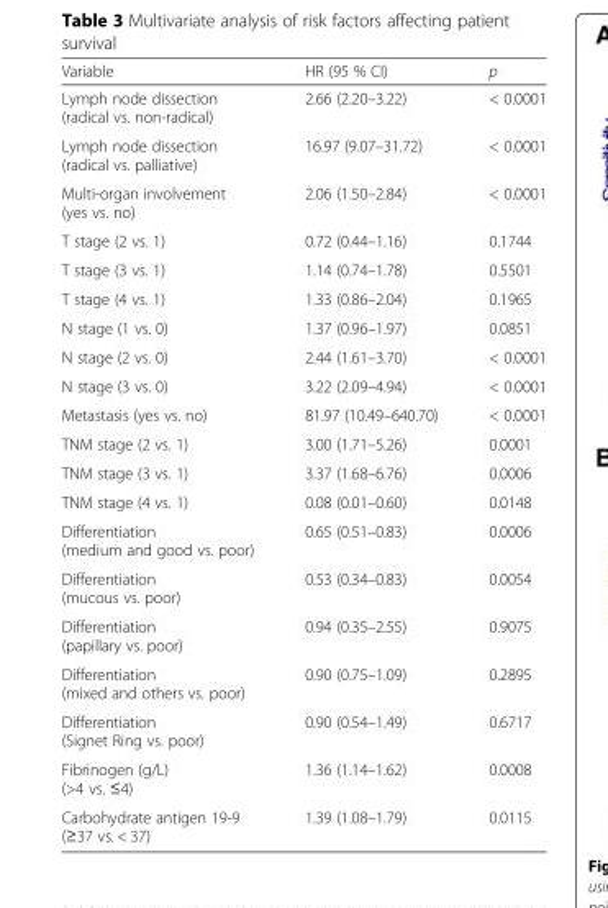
<table><thead><tr><td>Variable</td><td>HR (95 % CI)</td><td>p</td></tr></thead><tbody><tr><td>Lymph node dissection (radical vs. non-radical)</td><td>2.66 (2.20–3.22)</td><td>&lt; 0.0001</td></tr><tr><td>Lymph node dissection (radical vs. palliative)</td><td>16.97 (9.07–31.72)</td><td>&lt; 0.0001</td></tr><tr><td>Multi-organ involvement (yes vs. no)</td><td>2.06 (1.50–2.84)</td><td>&lt; 0.0001</td></tr><tr><td>T stage (2 vs. 1)</td><td>0.72 (0.44–1.16)</td><td>0.1744</td></tr><tr><td>T stage (3 vs. 1)</td><td>1.14 (0.74–1.78)</td><td>0.5501</td></tr><tr><td>T stage (4 vs. 1)</td><td>1.33 (0.86–2.04)</td><td>0.1965</td></tr><tr><td>N stage (1 vs. 0)</td><td>1.37 (0.96–1.97)</td><td>0.0851</td></tr><tr><td>N stage (2 vs. 0)</td><td>2.44 (1.61–3.70)</td><td>&lt; 0.0001</td></tr><tr><td>N stage (3 vs. 0)</td><td>3.22 (2.09–4.94)</td><td>&lt; 0.0001</td></tr><tr><td>Metastasis (yes vs. no)</td><td>81.97 (10.49–640.70)</td><td>&lt; 0.0001</td></tr><tr><td>TNM stage (2 vs. 1)</td><td>3.00 (1.71–5.26)</td><td>0.0001</td></tr><tr><td>TNM stage (3 vs. 1)</td><td>3.37 (1.68–6.76)</td><td>0.0006</td></tr><tr><td>TNM stage (4 vs. 1)</td><td>0.08 (0.01–0.60)</td><td>0.0148</td></tr><tr><td>Differentiation (medium and good vs. poor)</td><td>0.65 (0.51–0.83)</td><td>0.0006</td></tr><tr><td>Differentiation (mucous vs. poor)</td><td>0.53 (0.34–0.83)</td><td>0.0054</td></tr><tr><td>Differentiation (papillary vs. poor)</td><td>0.94 (0.35–2.55)</td><td>0.9075</td></tr><tr><td>Differentiation (mixed and others vs. poor)</td><td>0.90 (0.75–1.09)</td><td>0.2895</td></tr><tr><td>Differentiation (Signet Ring vs. poor)</td><td>0.90 (0.54–1.49)</td><td>0.6717</td></tr><tr><td>Fibrinogen (g/L) (&gt;4 vs. ≤4)</td><td>1.36 (1.14–1.62)</td><td>0.0008</td></tr><tr><td>Carbohydrate antigen 19-9 (≥37 vs. &lt; 37)</td><td>1.39 (1.08–1.79)</td><td>0.0115</td></tr></tbody></table>